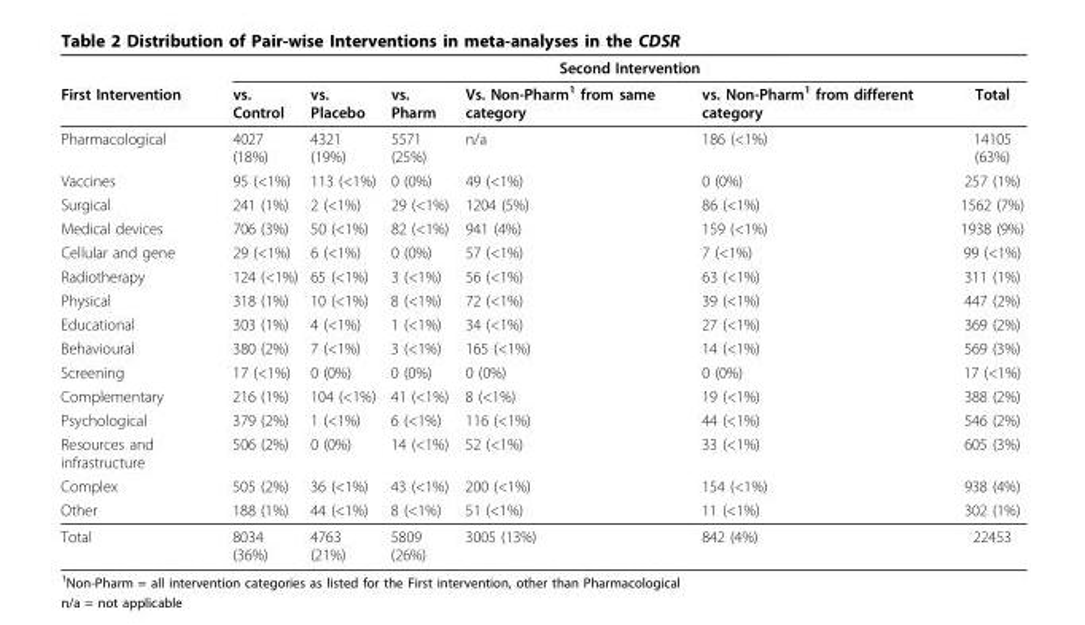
<table><thead><tr><td rowspan="2">First Intervention</td><td colspan="6">Second Intervention</td></tr><tr><td>vs. Control</td><td>vs. Placebo</td><td>vs. Pharm</td><td>Vs. Non-Pharm<sup>1</sup> from same category</td><td>vs. Non-Pharm<sup>1</sup> from different category</td><td>Total</td></tr></thead><tbody><tr><td>Pharmacological</td><td>4027 (18%)</td><td>4321 (19%)</td><td>5571 (25%)</td><td>n/a</td><td>186 (&lt;1%)</td><td>14105 (63%)</td></tr><tr><td>Vaccines</td><td>95 (&lt;1%)</td><td>113 (&lt;1%)</td><td>0 (0%)</td><td>49 (&lt;1%)</td><td>0 (0%)</td><td>257 (1%)</td></tr><tr><td>Surgical</td><td>241 (1%)</td><td>2 (&lt;1%)</td><td>29 (&lt;1%)</td><td>1204 (5%)</td><td>86 (&lt;1%)</td><td>1562 (7%)</td></tr><tr><td>Medical devices</td><td>706 (3%)</td><td>50 (&lt;1%)</td><td>82 (&lt;1%)</td><td>941 (4%)</td><td>159 (&lt;1%)</td><td>1938 (9%)</td></tr><tr><td>Cellular and gene</td><td>29 (&lt;1%)</td><td>6 (&lt;1%)</td><td>0 (0%)</td><td>57 (&lt;1%)</td><td>7 (&lt;1%)</td><td>99 (&lt;1%)</td></tr><tr><td>Radiotherapy</td><td>124 (&lt;1%)</td><td>65 (&lt;1%)</td><td>3 (&lt;1%)</td><td>56 (&lt;1%)</td><td>63 (&lt;1%)</td><td>311 (1%)</td></tr><tr><td>Physical</td><td>318 (1%)</td><td>10 (&lt;1%)</td><td>8 (&lt;1%)</td><td>72 (&lt;1%)</td><td>39 (&lt;1%)</td><td>447 (2%)</td></tr><tr><td>Educational</td><td>303 (1%)</td><td>4 (&lt;1%)</td><td>1 (&lt;1%)</td><td>34 (&lt;1%)</td><td>27 (&lt;1%)</td><td>369 (2%)</td></tr><tr><td>Behavioural</td><td>380 (2%)</td><td>7 (&lt;1%)</td><td>3 (&lt;1%)</td><td>165 (&lt;1%)</td><td>14 (&lt;1%)</td><td>569 (3%)</td></tr><tr><td>Screening</td><td>17 (&lt;1%)</td><td>0 (0%)</td><td>0 (0%)</td><td>0 (0%)</td><td>0 (0%)</td><td>17 (&lt;1%)</td></tr><tr><td>Complementary</td><td>216 (1%)</td><td>104 (&lt;1%)</td><td>41 (&lt;1%)</td><td>8 (&lt;1%)</td><td>19 (&lt;1%)</td><td>388 (2%)</td></tr><tr><td>Psychological</td><td>379 (2%)</td><td>1 (&lt;1%)</td><td>6 (&lt;1%)</td><td>116 (&lt;1%)</td><td>44 (&lt;1%)</td><td>546 (2%)</td></tr><tr><td>Resources and infrastructure</td><td>506 (2%)</td><td>0 (0%)</td><td>14 (&lt;1%)</td><td>52 (&lt;1%)</td><td>33 (&lt;1%)</td><td>605 (3%)</td></tr><tr><td>Complex</td><td>505 (2%)</td><td>36 (&lt;1%)</td><td>43 (&lt;1%)</td><td>200 (&lt;1%)</td><td>154 (&lt;1%)</td><td>938 (4%)</td></tr><tr><td>Other</td><td>188 (1%)</td><td>44 (&lt;1%)</td><td>8 (&lt;1%)</td><td>51 (&lt;1%)</td><td>11 (&lt;1%)</td><td>302 (1%)</td></tr><tr><td>Total</td><td>8034 (36%)</td><td>4763 (21%)</td><td>5809 (26%)</td><td>3005 (13%)</td><td>842 (4%)</td><td>22453</td></tr></tbody></table>